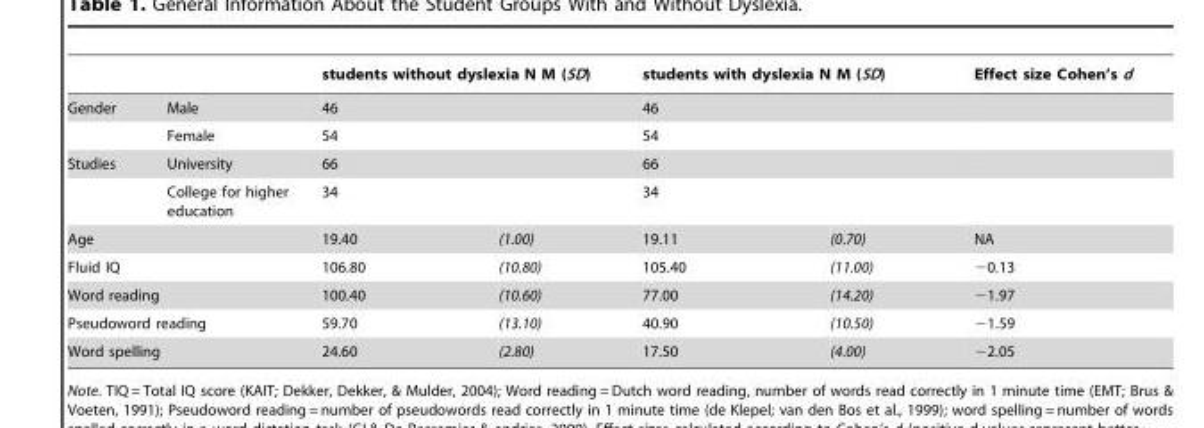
<table><thead><tr><td></td><td></td><td colspan="2">students without dyslexia N M (SD)</td><td colspan="2">students with dyslexia N M (SD)</td><td>Effect size Cohen’s d</td></tr></thead><tbody><tr><td rowspan="2">Gender</td><td>Male</td><td colspan="2">46</td><td colspan="2">46</td><td></td></tr><tr><td>Female</td><td colspan="2">54</td><td colspan="2">54</td><td></td></tr><tr><td rowspan="2">Studies</td><td>University</td><td colspan="2">66</td><td colspan="2">66</td><td></td></tr><tr><td>College for higher education</td><td colspan="2">34</td><td colspan="2">34</td><td></td></tr><tr><td colspan="2">Age</td><td>19.40</td><td>(1.00)</td><td>19.11</td><td>(0.70)</td><td>NA</td></tr><tr><td colspan="2">Fluid IQ</td><td>106.80</td><td>(10.80)</td><td>105.40</td><td>(11.00)</td><td>−0.13</td></tr><tr><td colspan="2">Word reading</td><td>100.40</td><td>(10.60)</td><td>77.00</td><td>(14.20)</td><td>−1.97</td></tr><tr><td colspan="2">Pseudoword reading</td><td>59.70</td><td>(13.10)</td><td>40.90</td><td>(10.50)</td><td>−1.59</td></tr><tr><td colspan="2">Word spelling</td><td>24.60</td><td>(2.80)</td><td>17.50</td><td>(4.00)</td><td>−2.05</td></tr></tbody></table>